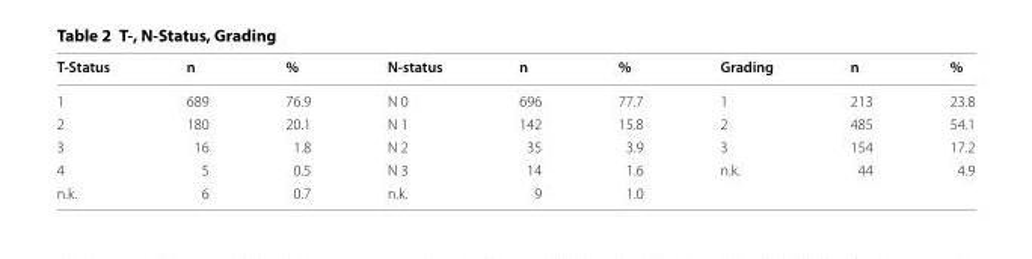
<table><thead><tr><td>T-Status</td><td>n</td><td>%</td><td>N-status</td><td>n</td><td>%</td><td>Grading</td><td>n</td><td>%</td></tr></thead><tbody><tr><td>1</td><td>689</td><td>76.9</td><td>N 0</td><td>696</td><td>77.7</td><td>1</td><td>213</td><td>23.8</td></tr><tr><td>2</td><td>180</td><td>20.1</td><td>N 1</td><td>142</td><td>15.8</td><td>2</td><td>485</td><td>54.1</td></tr><tr><td>3</td><td>16</td><td>1.8</td><td>N 2</td><td>35</td><td>3.9</td><td>3</td><td>154</td><td>17.2</td></tr><tr><td>4</td><td>5</td><td>0.5</td><td>N 3</td><td>14</td><td>1.6</td><td>n.k.</td><td>44</td><td>4.9</td></tr><tr><td>n.k.</td><td>6</td><td>0.7</td><td>n.k.</td><td>9</td><td>1.0</td><td></td><td></td><td></td></tr></tbody></table>